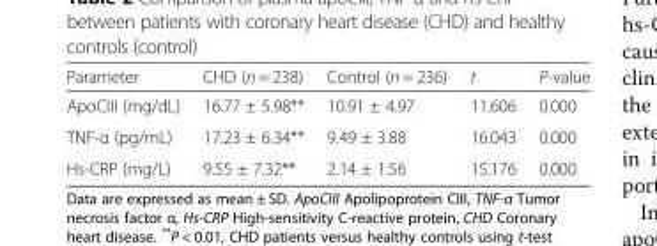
<table><thead><tr><td>Parameter</td><td>CHD (n = 238)</td><td>Control (n = 236)</td><td>t</td><td>P-value</td></tr></thead><tbody><tr><td>ApoCIII (mg/dL)</td><td>16.77 ± 5.98**</td><td>10.91 ± 4.97</td><td>11.606</td><td>0.000</td></tr><tr><td>TNF-α (pg/mL)</td><td>17.23 ± 6.34**</td><td>9.49 ± 3.88</td><td>16.043</td><td>0.000</td></tr><tr><td>Hs-CRP (mg/L)</td><td>9.55 ± 7.32**</td><td>2.14 ± 1.56</td><td>15.176</td><td>0.000</td></tr></tbody></table>